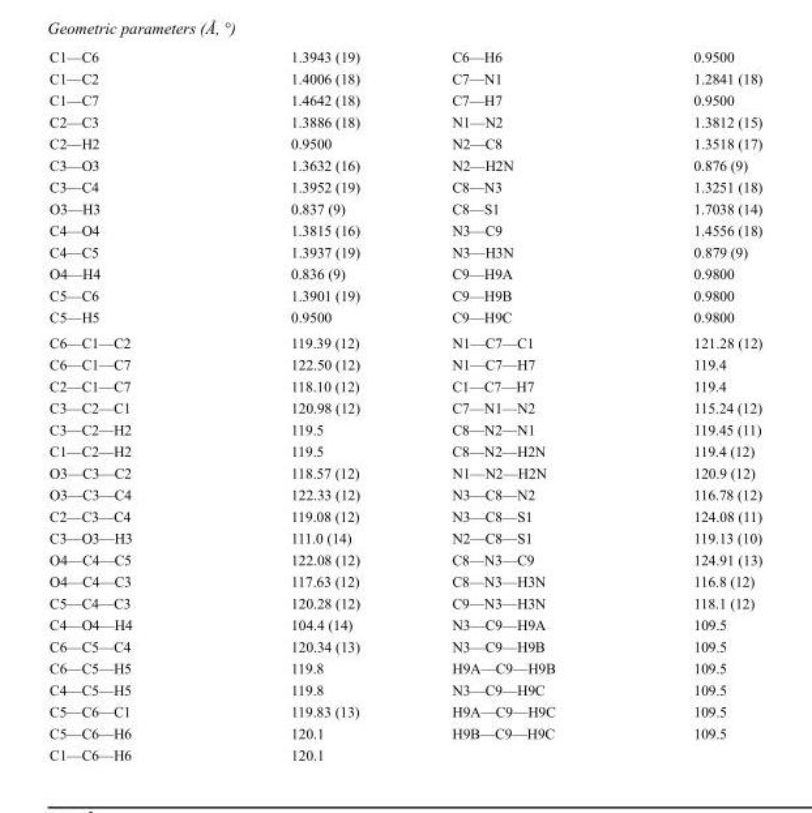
<table><tbody><tr><td>C1—C6</td><td>1.3943 (19)</td><td>C6—H6</td><td>0.9500</td></tr><tr><td>C1—C2</td><td>1.4006 (18)</td><td>C7—N1</td><td>1.2841 (18)</td></tr><tr><td>C1—C7</td><td>1.4642 (18)</td><td>C7—H7</td><td>0.9500</td></tr><tr><td>C2—C3</td><td>1.3886 (18)</td><td>N1—N2</td><td>1.3812 (15)</td></tr><tr><td>C2—H2</td><td>0.9500</td><td>N2—C8</td><td>1.3518 (17)</td></tr><tr><td>C3—O3</td><td>1.3632 (16)</td><td>N2—H2N</td><td>0.876 (9)</td></tr><tr><td>C3—C4</td><td>1.3952 (19)</td><td>C8—N3</td><td>1.3251 (18)</td></tr><tr><td>O3—H3</td><td>0.837 (9)</td><td>C8—S1</td><td>1.7038 (14)</td></tr><tr><td>C4—O4</td><td>1.3815 (16)</td><td>N3—C9</td><td>1.4556 (18)</td></tr><tr><td>C4—C5</td><td>1.3937 (19)</td><td>N3—H3N</td><td>0.879 (9)</td></tr><tr><td>O4—H4</td><td>0.836 (9)</td><td>C9—H9A</td><td>0.9800</td></tr><tr><td>C5—C6</td><td>1.3901 (19)</td><td>C9—H9B</td><td>0.9800</td></tr><tr><td>C5—H5</td><td>0.9500</td><td>C9—H9C</td><td>0.9800</td></tr><tr><td>C6—C1—C2</td><td>119.39 (12)</td><td>N1—C7—C1</td><td>121.28 (12)</td></tr><tr><td>C6—C1—C7</td><td>122.50 (12)</td><td>N1—C7—H7</td><td>119.4</td></tr><tr><td>C2—C1—C7</td><td>118.10 (12)</td><td>C1—C7—H7</td><td>119.4</td></tr><tr><td>C3—C2—C1</td><td>120.98 (12)</td><td>C7—N1—N2</td><td>115.24 (12)</td></tr><tr><td>C3—C2—H2</td><td>119.5</td><td>C8—N2—N1</td><td>119.45 (11)</td></tr><tr><td>C1—C2—H2</td><td>119.5</td><td>C8—N2—H2N</td><td>119.4 (12)</td></tr><tr><td>O3—C3—C2</td><td>118.57 (12)</td><td>N1—N2—H2N</td><td>120.9 (12)</td></tr><tr><td>O3—C3—C4</td><td>122.33 (12)</td><td>N3—C8—N2</td><td>116.78 (12)</td></tr><tr><td>C2—C3—C4</td><td>119.08 (12)</td><td>N3—C8—S1</td><td>124.08 (11)</td></tr><tr><td>C3—O3—H3</td><td>111.0 (14)</td><td>N2—C8—S1</td><td>119.13 (10)</td></tr><tr><td>O4—C4—C5</td><td>122.08 (12)</td><td>C8—N3—C9</td><td>124.91 (13)</td></tr><tr><td>O4—C4—C3</td><td>117.63 (12)</td><td>C8—N3—H3N</td><td>116.8 (12)</td></tr><tr><td>C5—C4—C3</td><td>120.28 (12)</td><td>C9—N3—H3N</td><td>118.1 (12)</td></tr><tr><td>C4—O4—H4</td><td>104.4 (14)</td><td>N3—C9—H9A</td><td>109.5</td></tr><tr><td>C6—C5—C4</td><td>120.34 (13)</td><td>N3—C9—H9B</td><td>109.5</td></tr><tr><td>C6—C5—H5</td><td>119.8</td><td>H9A—C9—H9B</td><td>109.5</td></tr><tr><td>C4—C5—H5</td><td>119.8</td><td>N3—C9—H9C</td><td>109.5</td></tr><tr><td>C5—C6—C1</td><td>119.83 (13)</td><td>H9A—C9—H9C</td><td>109.5</td></tr><tr><td>C5—C6—H6</td><td>120.1</td><td>H9B—C9—H9C</td><td>109.5</td></tr><tr><td>C1—C6—H6</td><td>120.1</td><td></td><td></td></tr></tbody></table>